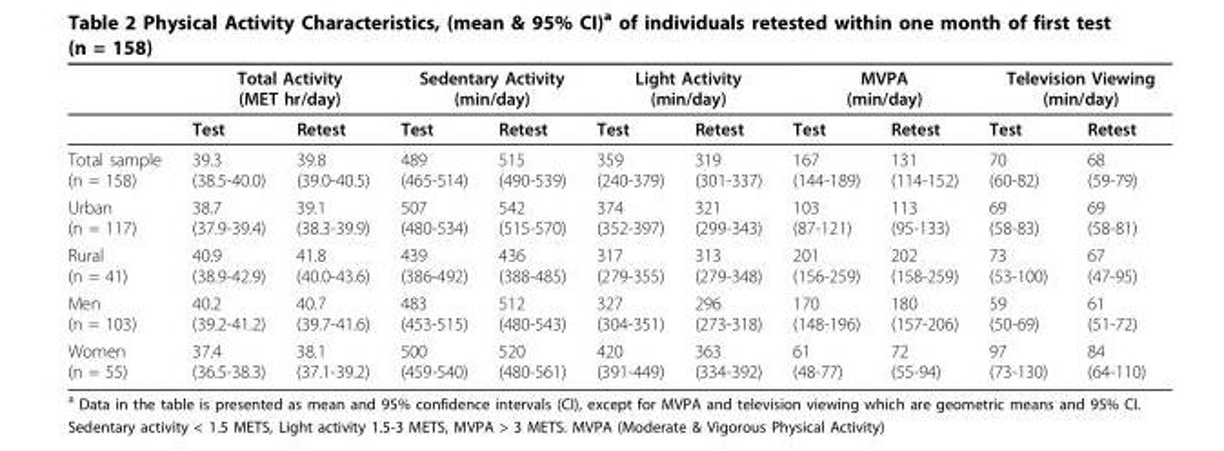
<table><thead><tr><td rowspan="2"></td><td colspan="2">Total Activity (MET hr/day)</td><td colspan="2">Sedentary Activity (min/day)</td><td colspan="2">Light Activity (min/day)</td><td colspan="2">MVPA (min/day)</td><td colspan="2">Television Viewing (min/day)</td></tr><tr><td>Test</td><td>Retest</td><td>Test</td><td>Retest</td><td>Test</td><td>Retest</td><td>Test</td><td>Retest</td><td>Test</td><td>Retest</td></tr></thead><tbody><tr><td>Total sample (n = 158)</td><td>39.3 (38.5-40.0)</td><td>39.8 (39.0-40.5)</td><td>489 (465-514)</td><td>515 (490-539)</td><td>359 (240-379)</td><td>319 (301-337)</td><td>167 (144-189)</td><td>131 (114-152)</td><td>70 (60-82)</td><td>68 (59-79)</td></tr><tr><td>Urban (n = 117)</td><td>38.7 (37.9-39.4)</td><td>39.1 (38.3-39.9)</td><td>507 (480-534)</td><td>542 (515-570)</td><td>374 (352-397)</td><td>321 (299-343)</td><td>103 (87-121)</td><td>113 (95-133)</td><td>69 (58-83)</td><td>69 (58-81)</td></tr><tr><td>Rural (n = 41)</td><td>40.9 (38.9-42.9)</td><td>41.8 (40.0-43.6)</td><td>439 (386-492)</td><td>436 (388-485)</td><td>317 (279-355)</td><td>313 (279-348)</td><td>201 (156-259)</td><td>202 (158-259)</td><td>73 (53-100)</td><td>67 (47-95)</td></tr><tr><td>Men (n = 103)</td><td>40.2 (39.2-41.2)</td><td>40.7 (39.7-41.6)</td><td>483 (453-515)</td><td>512 (480-543)</td><td>327 (304-351)</td><td>296 (273-318)</td><td>170 (148-196)</td><td>180 (157-206)</td><td>59 (50-69)</td><td>61 (51-72)</td></tr><tr><td>Women (n = 55)</td><td>37.4 (36.5-38.3)</td><td>38.1 (37.1-39.2)</td><td>500 (459-540)</td><td>520 (480-561)</td><td>420 (391-449)</td><td>363 (334-392)</td><td>61 (48-77)</td><td>72 (55-94)</td><td>97 (73-130)</td><td>84 (64-110)</td></tr></tbody></table>